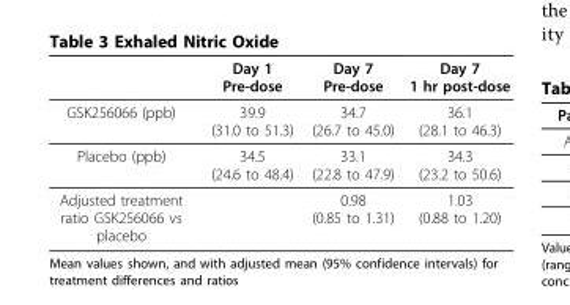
<table><thead><tr><td></td><td>Day 1 Pre-dose</td><td>Day 7 Pre-dose</td><td>Day 7 1 hr post-dose</td></tr></thead><tbody><tr><td>GSK256066 (ppb)</td><td>39.9 (31.0 to 51.3)</td><td>34.7 (26.7 to 45.0)</td><td>36.1 (28.1 to 46.3)</td></tr><tr><td>Placebo (ppb)</td><td>34.5 (24.6 to 48.4)</td><td>33.1 (22.8 to 47.9)</td><td>34.3 (23.2 to 50.6)</td></tr><tr><td>Adjusted treatment ratio GSK256066 vs placebo</td><td></td><td>0.98 (0.85 to 1.31)</td><td>1.03 (0.88 to 1.20)</td></tr></tbody></table>